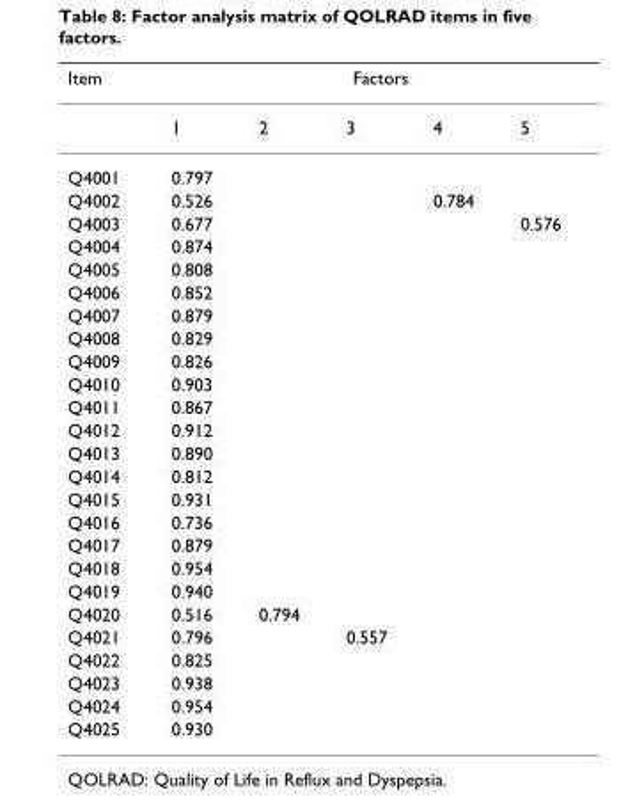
<table><thead><tr><td rowspan="2">Item</td><td colspan="5">Factors</td></tr><tr><td>1</td><td>2</td><td>3</td><td>4</td><td>5</td></tr></thead><tbody><tr><td>Q4001</td><td>0.797</td><td></td><td></td><td></td><td></td></tr><tr><td>Q4002</td><td>0.526</td><td></td><td></td><td>0.784</td><td></td></tr><tr><td>Q4003</td><td>0.677</td><td></td><td></td><td></td><td>0.576</td></tr><tr><td>Q4004</td><td>0.874</td><td></td><td></td><td></td><td></td></tr><tr><td>Q4005</td><td>0.808</td><td></td><td></td><td></td><td></td></tr><tr><td>Q4006</td><td>0.852</td><td></td><td></td><td></td><td></td></tr><tr><td>Q4007</td><td>0.879</td><td></td><td></td><td></td><td></td></tr><tr><td>Q4008</td><td>0.829</td><td></td><td></td><td></td><td></td></tr><tr><td>Q4009</td><td>0.826</td><td></td><td></td><td></td><td></td></tr><tr><td>Q4010</td><td>0.903</td><td></td><td></td><td></td><td></td></tr><tr><td>Q4011</td><td>0.867</td><td></td><td></td><td></td><td></td></tr><tr><td>Q4012</td><td>0.912</td><td></td><td></td><td></td><td></td></tr><tr><td>Q4013</td><td>0.890</td><td></td><td></td><td></td><td></td></tr><tr><td>Q4014</td><td>0.812</td><td></td><td></td><td></td><td></td></tr><tr><td>Q4015</td><td>0.931</td><td></td><td></td><td></td><td></td></tr><tr><td>Q4016</td><td>0.736</td><td></td><td></td><td></td><td></td></tr><tr><td>Q4017</td><td>0.879</td><td></td><td></td><td></td><td></td></tr><tr><td>Q4018</td><td>0.954</td><td></td><td></td><td></td><td></td></tr><tr><td>Q4019</td><td>0.940</td><td></td><td></td><td></td><td></td></tr><tr><td>Q4020</td><td>0.516</td><td>0.794</td><td></td><td></td><td></td></tr><tr><td>Q4021</td><td>0.796</td><td></td><td>0.557</td><td></td><td></td></tr><tr><td>Q4022</td><td>0.825</td><td></td><td></td><td></td><td></td></tr><tr><td>Q4023</td><td>0.938</td><td></td><td></td><td></td><td></td></tr><tr><td>Q4024</td><td>0.954</td><td></td><td></td><td></td><td></td></tr><tr><td>Q4025</td><td>0.930</td><td></td><td></td><td></td><td></td></tr></tbody></table>